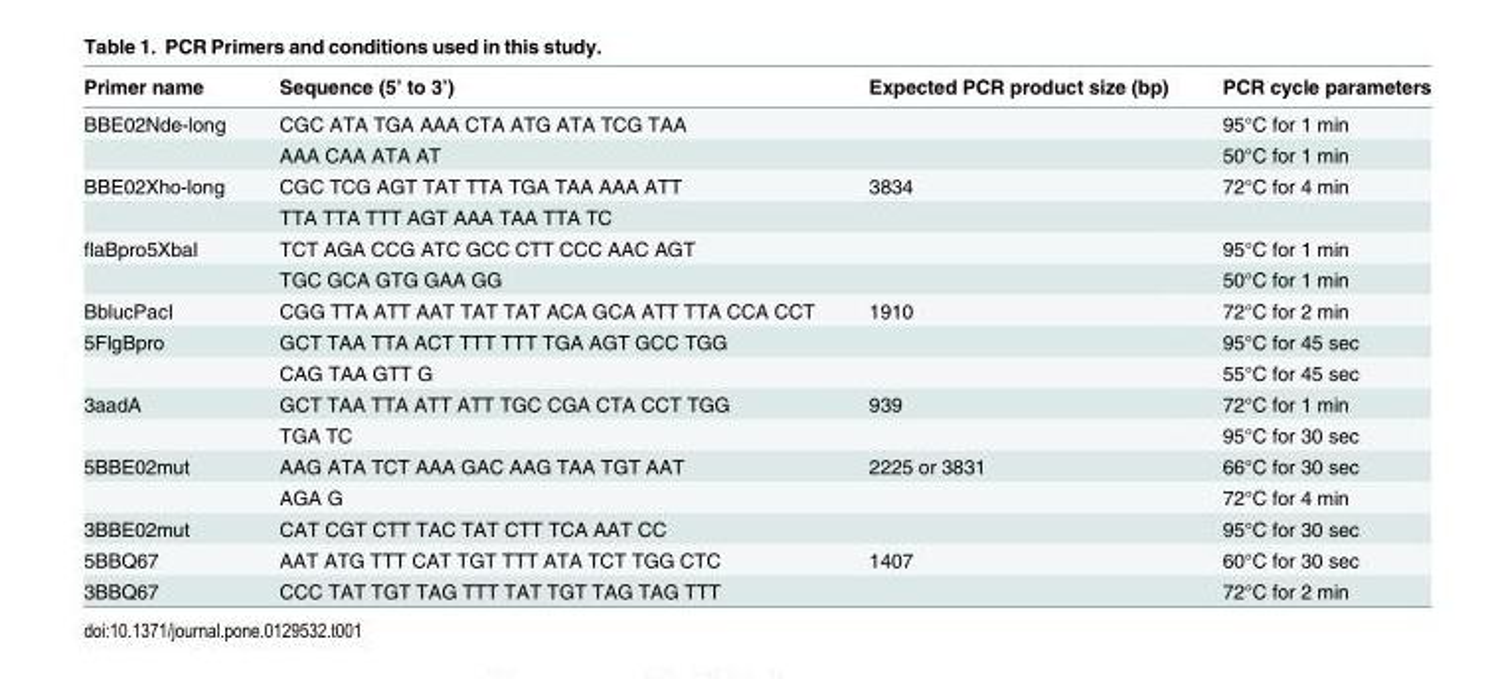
<table><thead><tr><td>Primer name</td><td>Sequence (5’ to 3’)</td><td>Expected PCR product size (bp)</td><td>PCR cycle parameters</td></tr></thead><tbody><tr><td rowspan="2">BBE02Nde-long</td><td>CGC ATA TGA AAA CTA ATG ATA TCG TAA</td><td></td><td>95°C for 1 min</td></tr><tr><td>AAA CAA ATA AT</td><td></td><td>50°C for 1 min</td></tr><tr><td rowspan="2">BBE02Xho-long</td><td>CGC TCG AGT TAT TTA TGA TAA AAA ATT</td><td>3834</td><td>72°C for 4 min</td></tr><tr><td>TTA TTA TTT AGT AAA TAA TTA TC</td><td></td><td></td></tr><tr><td rowspan="2">flaBpro5XbaI</td><td>TCT AGA CCG ATC GCC CTT CCC AAC AGT</td><td></td><td>95°C for 1 min</td></tr><tr><td>TGC GCA GTG GAA GG</td><td></td><td>50°C for 1 min</td></tr><tr><td>BblucPacI</td><td>CGG TTA ATT AAT TAT TAT ACA GCA ATT TTA CCA CCT</td><td>1910</td><td>72°C for 2 min</td></tr><tr><td rowspan="2">5FlgBpro</td><td>GCT TAA TTA ACT TTT TTT TGA AGT GCC TGG</td><td></td><td>95°C for 45 sec</td></tr><tr><td>CAG TAA GTT G</td><td></td><td>55°C for 45 sec</td></tr><tr><td rowspan="2">3aadA</td><td>GCT TAA TTA ATT ATT TGC CGA CTA CCT TGG</td><td>939</td><td>72°C for 1 min</td></tr><tr><td>TGA TC</td><td></td><td>95°C for 30 sec</td></tr><tr><td rowspan="2">5BBE02mut</td><td>AAG ATA TCT AAA GAC AAG TAA TGT AAT</td><td>2225 or 3831</td><td>66°C for 30 sec</td></tr><tr><td>AGA G</td><td></td><td>72°C for 4 min</td></tr><tr><td>3BBE02mut</td><td>CAT CGT CTT TAC TAT CTT TCA AAT CC</td><td></td><td>95°C for 30 sec</td></tr><tr><td>5BBQ67</td><td>AAT ATG TTT CAT TGT TTT ATA TCT TGG CTC</td><td>1407</td><td>60°C for 30 sec</td></tr><tr><td>3BBQ67</td><td>CCC TAT TGT TAG TTT TAT TGT TAG TAG TTT</td><td></td><td>72°C for 2 min</td></tr></tbody></table>